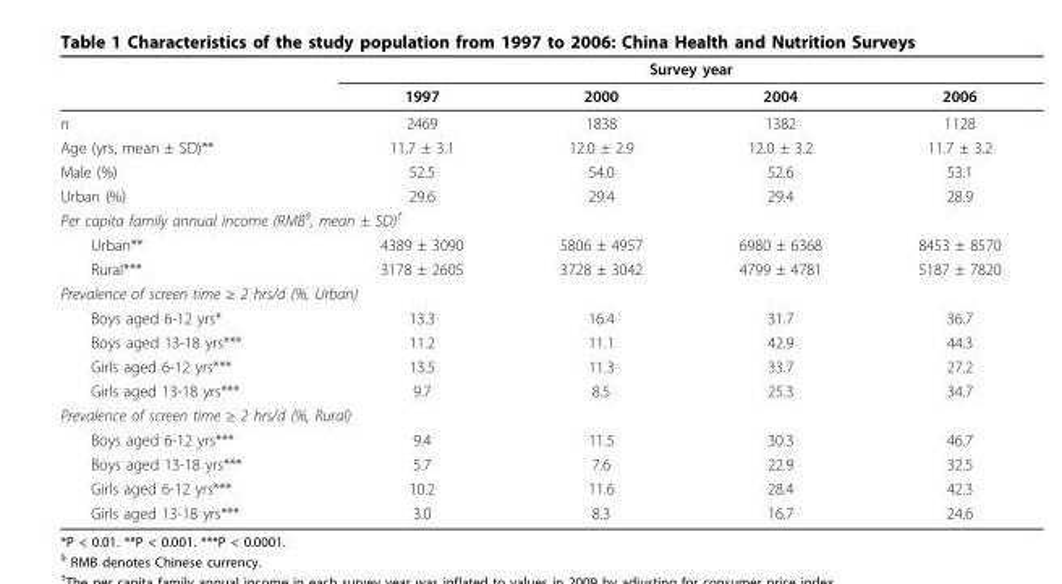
<table><thead><tr><td rowspan="2"></td><td colspan="4">Survey year</td></tr><tr><td>1997</td><td>2000</td><td>2004</td><td>2006</td></tr></thead><tbody><tr><td>n</td><td>2469</td><td>1838</td><td>1382</td><td>1128</td></tr><tr><td>Age (yrs, mean ± SD)**</td><td>11.7 ± 3.1</td><td>12.0 ± 2.9</td><td>12.0 ± 3.2</td><td>11.7 ± 3.2</td></tr><tr><td>Male (%)</td><td>52.5</td><td>54.0</td><td>52.6</td><td>53.1</td></tr><tr><td>Urban (%)</td><td>29.6</td><td>29.4</td><td>29.4</td><td>28.9</td></tr><tr><td colspan="5">Per capita family annual income (RMB<sup>§</sup>, mean ± SD)<sup>†</sup></td></tr><tr><td>Urban**</td><td>4389 ± 3090</td><td>5806 ± 4957</td><td>6980 ± 6368</td><td>8453 ± 8570</td></tr><tr><td>Rural***</td><td>3178 ± 2605</td><td>3728 ± 3042</td><td>4799 ± 4781</td><td>5187 ± 7820</td></tr><tr><td colspan="5">Prevalence of screen time ≥ 2 hrs/d (%, Urban)</td></tr><tr><td>Boys aged 6-12 yrs*</td><td>13.3</td><td>16.4</td><td>31.7</td><td>36.7</td></tr><tr><td>Boys aged 13-18 yrs***</td><td>11.2</td><td>11.1</td><td>42.9</td><td>44.3</td></tr><tr><td>Girls aged 6-12 yrs***</td><td>13.5</td><td>11.3</td><td>33.7</td><td>27.2</td></tr><tr><td>Girls aged 13-18 yrs***</td><td>9.7</td><td>8.5</td><td>25.3</td><td>34.7</td></tr><tr><td colspan="5">Prevalence of screen time ≥ 2 hrs/d (%, Rural)</td></tr><tr><td>Boys aged 6-12 yrs***</td><td>9.4</td><td>11.5</td><td>30.3</td><td>46.7</td></tr><tr><td>Boys aged 13-18 yrs***</td><td>5.7</td><td>7.6</td><td>22.9</td><td>32.5</td></tr><tr><td>Girls aged 6-12 yrs***</td><td>10.2</td><td>11.6</td><td>28.4</td><td>42.3</td></tr><tr><td>Girls aged 13-18 yrs***</td><td>3.0</td><td>8.3</td><td>16.7</td><td>24.6</td></tr></tbody></table>